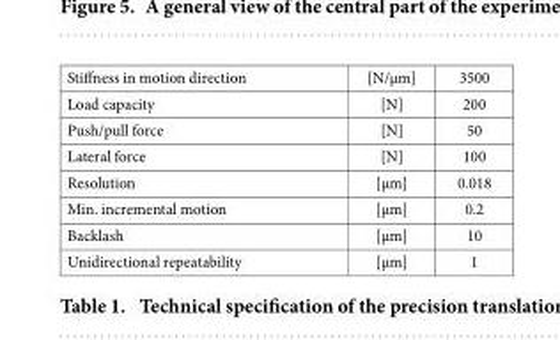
<table><tbody><tr><td>Stiffness in motion direction</td><td>[N/μm]</td><td>3500</td></tr><tr><td>Load capacity</td><td>[N]</td><td>200</td></tr><tr><td>Push/pull force</td><td>[N]</td><td>50</td></tr><tr><td>Lateral force</td><td>[N]</td><td>100</td></tr><tr><td>Resolution</td><td>[μm]</td><td>0.018</td></tr><tr><td>Min. incremental motion</td><td>[μm]</td><td>0.2</td></tr><tr><td>Backlash</td><td>[μm]</td><td>10</td></tr><tr><td>Unidirectional repeatability</td><td>[μm]</td><td>1</td></tr></tbody></table>